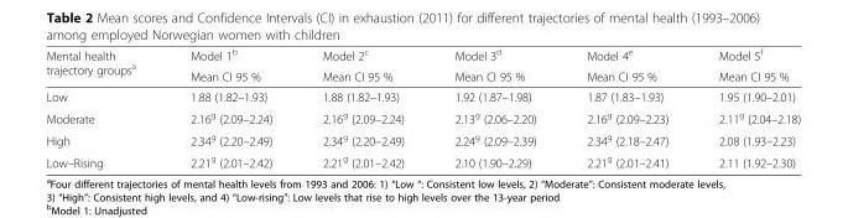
<table><thead><tr><td rowspan="2">Mental health trajectory groups<sup>a</sup></td><td rowspan="2">Model 1<sup>b</sup> Mean CI 95 %</td><td rowspan="2">Model 2<sup>c</sup> Mean CI 95 %</td><td rowspan="2">Model 3<sup>d</sup> Mean CI 95 %</td><td rowspan="2">Model 4<sup>e</sup> Mean CI 95 %</td><td rowspan="2">Model 5<sup>f</sup> Mean CI 95 %</td></tr><tr></tr></thead><tbody><tr><td>Low</td><td>1.88 (1.82–1.93)</td><td>1.88 (1.82–1.93)</td><td>1.92 (1.87–1.98)</td><td>1.87 (1.83–1.93)</td><td>1.95 (1.90–2.01)</td></tr><tr><td>Moderate</td><td>2.16<sup>g</sup> (2.09–2.24)</td><td>2.16<sup>g</sup> (2.09–2.24)</td><td>2.13<sup>g</sup> (2.06–2.20)</td><td>2.16<sup>g</sup> (2.09–2.23)</td><td>2.11<sup>g</sup> (2.04–2.18)</td></tr><tr><td>High</td><td>2.34<sup>g</sup> (2.20–2.49)</td><td>2.34<sup>g</sup> (2.20–2.49)</td><td>2.24<sup>g</sup> (2.09–2.39)</td><td>2.34<sup>g</sup> (2.18–2.47)</td><td>2.08 (1.93–2.23)</td></tr><tr><td>Low–Rising</td><td>2.21<sup>g</sup> (2.01–2.42)</td><td>2.21<sup>g</sup> (2.01–2.42)</td><td>2.10 (1.90–2.29)</td><td>2.21<sup>g</sup> (2.01–2.41)</td><td>2.11 (1.92–2.30)</td></tr></tbody></table>